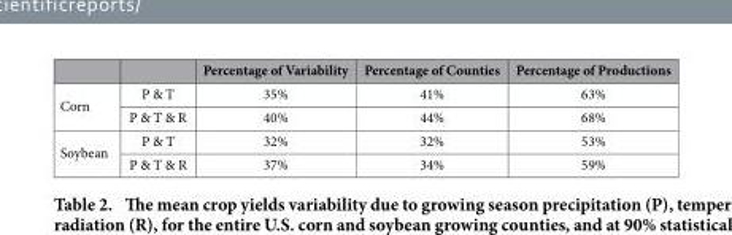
<table><thead><tr><td></td><td></td><td>Percentage of Variability</td><td>Percentage of Counties</td><td>Percentage of Productions</td></tr></thead><tbody><tr><td rowspan="2">Corn</td><td>P &amp; T</td><td>35%</td><td>41%</td><td>63%</td></tr><tr><td>P &amp; T &amp; R</td><td>40%</td><td>44%</td><td>68%</td></tr><tr><td rowspan="2">Soybean</td><td>P &amp; T</td><td>32%</td><td>32%</td><td>53%</td></tr><tr><td>P &amp; T &amp; R</td><td>37%</td><td>34%</td><td>59%</td></tr></tbody></table>